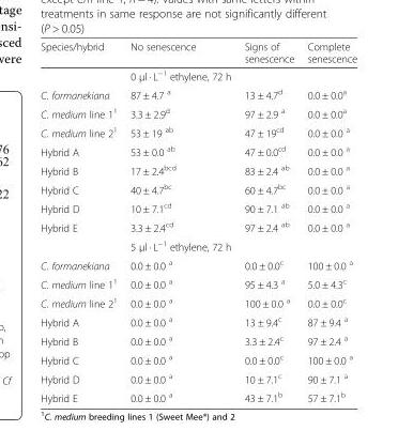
<table><thead><tr><td>Species/hybrid</td><td>No senescence</td><td>Signs of senescence</td><td>Complete senescence</td></tr></thead><tbody><tr><td></td><td>0 μl · L<sup>−1</sup> ethylene, 72 h</td><td></td><td></td></tr><tr><td>C. formanekiana</td><td>87 ± 4.7 <sup>a</sup></td><td>13 ± 4.7<sup>d</sup></td><td>0.0 ± 0.0<sup>a</sup></td></tr><tr><td>C. medium line 1<sup>1</sup></td><td>3.3 ± 2.9<sup>d</sup></td><td>97 ± 2.9 <sup>a</sup></td><td>0.0 ± 0.0<sup>a</sup></td></tr><tr><td>C. medium line 2<sup>1</sup></td><td>53 ± 19 <sup>ab</sup></td><td>47 ± 19<sup>cd</sup></td><td>0.0 ± 0.0 <sup>a</sup></td></tr><tr><td>Hybrid A</td><td>53 ± 0.0 <sup>ab</sup></td><td>47 ± 0.0<sup>cd</sup></td><td>0.0 ± 0.0 <sup>a</sup></td></tr><tr><td>Hybrid B</td><td>17 ± 2.4<sup>bcd</sup></td><td>83 ± 2.4 <sup>ab</sup></td><td>0.0 ± 0.0 <sup>a</sup></td></tr><tr><td>Hybrid C</td><td>40 ± 4.7<sup>bc</sup></td><td>60 ± 4.7<sup>bc</sup></td><td>0.0 ± 0.0 <sup>a</sup></td></tr><tr><td>Hybrid D</td><td>10 ± 7.1<sup>cd</sup></td><td>90 ± 7.1 <sup>ab</sup></td><td>0.0 ± 0.0 <sup>a</sup></td></tr><tr><td rowspan="2">Hybrid E</td><td>3.3 ± 2.4<sup>cd</sup></td><td>97 ± 2.4 <sup>ab</sup></td><td>0.0 ± 0.0 <sup>a</sup></td></tr><tr><td>5 μl · L<sup>−1</sup> ethylene, 72 h</td><td></td><td></td></tr><tr><td>C. formanekiana</td><td>0.0 ± 0.0 <sup>a</sup></td><td>0.0 ± 0.0<sup>c</sup></td><td>100 ± 0.0 <sup>a</sup></td></tr><tr><td>C. medium line 1<sup>1</sup></td><td>0.0 ± 0.0 <sup>a</sup></td><td>95 ± 4.3 <sup>a</sup></td><td>5.0 ± 4.3<sup>c</sup></td></tr><tr><td>C. medium line 2<sup>1</sup></td><td>0.0 ± 0.0 <sup>a</sup></td><td>100 ± 0.0 <sup>a</sup></td><td>0.0 ± 0.0<sup>c</sup></td></tr><tr><td>Hybrid A</td><td>0.0 ± 0.0 <sup>a</sup></td><td>13 ± 9.4<sup>c</sup></td><td>87 ± 9.4 <sup>a</sup></td></tr><tr><td>Hybrid B</td><td>0.0 ± 0.0 <sup>a</sup></td><td>3.3 ± 2.4<sup>c</sup></td><td>97 ± 2.4 <sup>a</sup></td></tr><tr><td>Hybrid C</td><td>0.0 ± 0.0 <sup>a</sup></td><td>0.0 ± 0.0<sup>c</sup></td><td>100 ± 0.0 <sup>a</sup></td></tr><tr><td>Hybrid D</td><td>0.0 ± 0.0 <sup>a</sup></td><td>10 ± 7.1<sup>c</sup></td><td>90 ± 7.1 <sup>a</sup></td></tr><tr><td>Hybrid E</td><td>0.0 ± 0.0 <sup>a</sup></td><td>43 ± 7.1<sup>b</sup></td><td>57 ± 7.1<sup>b</sup></td></tr></tbody></table>